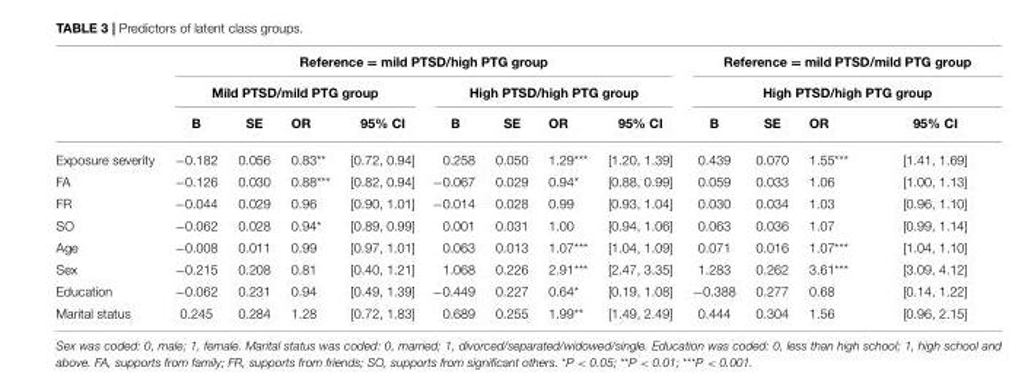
<table><thead><tr><td rowspan="3"></td><td colspan="8">Reference = mild PTSD/high PTG group</td><td rowspan="2" colspan="4">Reference = mild PTSD/mild PTG group High PTSD/high PTG group</td></tr><tr><td colspan="4">Mild PTSD/mild PTG group</td><td colspan="4">High PTSD/high PTG group</td></tr><tr><td>B</td><td>SE</td><td>OR</td><td>95% CI</td><td>B</td><td>SE</td><td>OR</td><td>95% CI</td><td>B</td><td>SE</td><td>OR</td><td>95% CI</td></tr></thead><tbody><tr><td>Exposure severity</td><td>−0.182</td><td>0.056</td><td>0.83**</td><td>[0.72, 0.94]</td><td>0.258</td><td>0.050</td><td>1.29***</td><td>[1.20, 1.39]</td><td>0.439</td><td>0.070</td><td>1.55***</td><td>[1.41, 1.69]</td></tr><tr><td>FA</td><td>−0.126</td><td>0.030</td><td>0.88***</td><td>[0.82, 0.94]</td><td>−0.067</td><td>0.029</td><td>0.94*</td><td>[0.88, 0.99]</td><td>0.059</td><td>0.033</td><td>1.06</td><td>[1.00, 1.13]</td></tr><tr><td>FR</td><td>−0.044</td><td>0.029</td><td>0.96</td><td>[0.90, 1.01]</td><td>−0.014</td><td>0.028</td><td>0.99</td><td>[0.93, 1.04]</td><td>0.030</td><td>0.034</td><td>1.03</td><td>[0.96, 1.10]</td></tr><tr><td>SO</td><td>−0.062</td><td>0.028</td><td>0.94*</td><td>[0.89, 0.99]</td><td>0.001</td><td>0.031</td><td>1.00</td><td>[0.94, 1.06]</td><td>0.063</td><td>0.036</td><td>1.07</td><td>[0.99, 1.14]</td></tr><tr><td>Age</td><td>−0.008</td><td>0.011</td><td>0.99</td><td>[0.97, 1.01]</td><td>0.063</td><td>0.013</td><td>1.07***</td><td>[1.04, 1.09]</td><td>0.071</td><td>0.016</td><td>1.07***</td><td>[1.04, 1.10]</td></tr><tr><td>Sex</td><td>−0.215</td><td>0.208</td><td>0.81</td><td>[0.40, 1.21]</td><td>1.068</td><td>0.226</td><td>2.91***</td><td>[2.47, 3.35]</td><td>1.283</td><td>0.262</td><td>3.61***</td><td>[3.09, 4.12]</td></tr><tr><td>Education</td><td>−0.062</td><td>0.231</td><td>0.94</td><td>[0.49, 1.39]</td><td>−0.449</td><td>0.227</td><td>0.64*</td><td>[0.19, 1.08]</td><td>−0.388</td><td>0.277</td><td>0.68</td><td>[0.14, 1.22]</td></tr><tr><td>Marital status</td><td>0.245</td><td>0.284</td><td>1.28</td><td>[0.72, 1.83]</td><td>0.689</td><td>0.255</td><td>1.99**</td><td>[1.49, 2.49]</td><td>0.444</td><td>0.304</td><td>1.56</td><td>[0.96, 2.15]</td></tr></tbody></table>